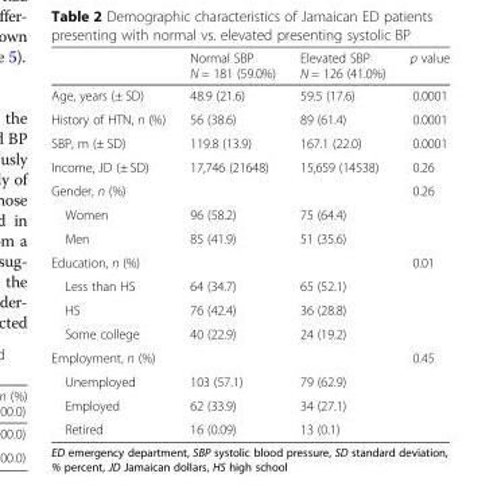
<table><thead><tr><td></td><td>Normal SBP N = 181 (59.0%)</td><td>Elevated SBP N = 126 (41.0%)</td><td>p value</td></tr></thead><tbody><tr><td>Age, years (± SD)</td><td>48.9 (21.6)</td><td>59.5 (17.6)</td><td>0.0001</td></tr><tr><td>History of HTN, n (%)</td><td>56 (38.6)</td><td>89 (61.4)</td><td>0.0001</td></tr><tr><td>SBP, m (± SD)</td><td>119.8 (13.9)</td><td>167.1 (22.0)</td><td>0.0001</td></tr><tr><td>Income, JD (± SD)</td><td>17,746 (21648)</td><td>15,659 (14538)</td><td>0.26</td></tr><tr><td>Gender, n (%)</td><td></td><td></td><td>0.26</td></tr><tr><td>Women</td><td>96 (58.2)</td><td>75 (64.4)</td><td></td></tr><tr><td>Men</td><td>85 (41.9)</td><td>51 (35.6)</td><td></td></tr><tr><td>Education, n (%)</td><td></td><td></td><td>0.01</td></tr><tr><td>Less than HS</td><td>64 (34.7)</td><td>65 (52.1)</td><td></td></tr><tr><td>HS</td><td>76 (42.4)</td><td>36 (28.8)</td><td></td></tr><tr><td>Some college</td><td>40 (22.9)</td><td>24 (19.2)</td><td></td></tr><tr><td>Employment, n (%)</td><td></td><td></td><td>0.45</td></tr><tr><td>Unemployed</td><td>103 (57.1)</td><td>79 (62.9)</td><td></td></tr><tr><td>Employed</td><td>62 (33.9)</td><td>34 (27.1)</td><td></td></tr><tr><td>Retired</td><td>16 (0.09)</td><td>13 (0.1)</td><td></td></tr></tbody></table>